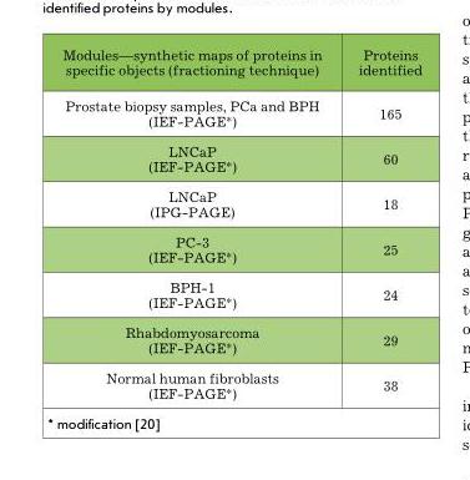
<table><thead><tr><td>Modules—synthetic maps of proteins in specific objects (fractioning technique)</td><td>Proteins identified</td></tr></thead><tbody><tr><td>Prostate biopsy samples, PCa and BPH (IEF-PAGE*)</td><td>165</td></tr><tr><td>LNCaP (IEF-PAGE*)</td><td>60</td></tr><tr><td>LNCaP (IPG-PAGE)</td><td>18</td></tr><tr><td>PC-3 (IEF-PAGE*)</td><td>25</td></tr><tr><td>BPH-1 (IEF-PAGE*)</td><td>24</td></tr><tr><td>Rhabdomyosarcoma (IEF-PAGE*)</td><td>29</td></tr><tr><td>Normal human fibroblasts (IEF-PAGE*)</td><td>38</td></tr><tr><td colspan="2">* modification [20]</td></tr></tbody></table>